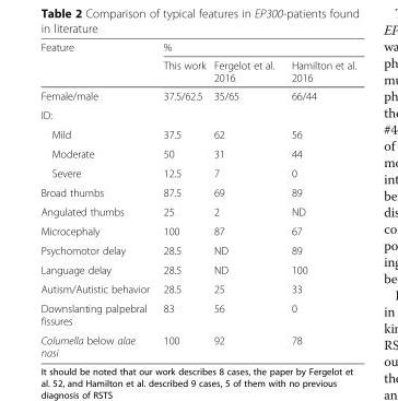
<table><thead><tr><td rowspan="2">Feature</td><td colspan="3">%</td></tr><tr><td>This work</td><td>Fergelot et al. 2016</td><td>Hamilton et al. 2016</td></tr></thead><tbody><tr><td>Female/male</td><td>37.5/62.5</td><td>35/65</td><td>66/44</td></tr><tr><td colspan="4">ID:</td></tr><tr><td>Mild</td><td>37.5</td><td>62</td><td>56</td></tr><tr><td>Moderate</td><td>50</td><td>31</td><td>44</td></tr><tr><td>Severe</td><td>12.5</td><td>7</td><td>0</td></tr><tr><td>Broad thumbs</td><td>87.5</td><td>69</td><td>89</td></tr><tr><td>Angulated thumbs</td><td>25</td><td>2</td><td>ND</td></tr><tr><td>Microcephaly</td><td>100</td><td>87</td><td>67</td></tr><tr><td>Psychomotor delay</td><td>28.5</td><td>ND</td><td>89</td></tr><tr><td>Language delay</td><td>28.5</td><td>ND</td><td>100</td></tr><tr><td>Autism/Autistic behavior</td><td>28.5</td><td>25</td><td>33</td></tr><tr><td>Downslanting palpebral fissures</td><td>83</td><td>56</td><td>0</td></tr><tr><td>Columella below alae nasi</td><td>100</td><td>92</td><td>78</td></tr></tbody></table>